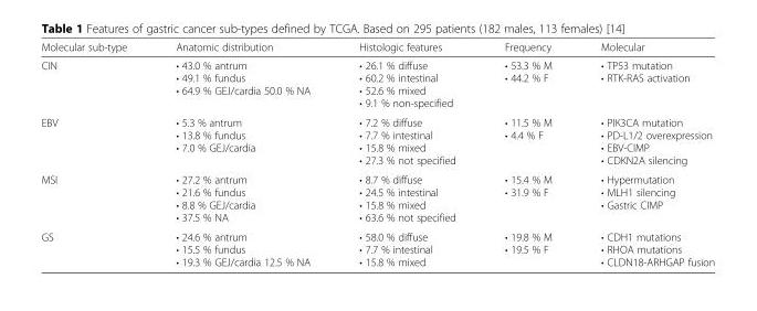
<table><thead><tr><td>Molecular sub-type</td><td>Anatomic distribution</td><td>Histologic features</td><td>Frequency</td><td>Molecular</td></tr></thead><tbody><tr><td>CIN</td><td>• 43.0 % antrum • 49.1 % fundus • 64.9 % GEJ/cardia 50.0 % NA</td><td>• 26.1 % diffuse • 60.2 % intestinal • 52.6 % mixed • 9.1 % non-specified</td><td>• 53.3 % M • 44.2 % F</td><td>• TP53 mutation • RTK-RAS activation</td></tr><tr><td>EBV</td><td>• 5.3 % antrum • 13.8 % fundus • 7.0 % GEJ/cardia</td><td>• 7.2 % diffuse • 7.7 % intestinal • 15.8 % mixed • 27.3 % not specified</td><td>• 11.5 % M • 4.4 % F</td><td>• PIK3CA mutation • PD-L1/2 overexpression • EBV-CIMP • CDKN2A silencing</td></tr><tr><td>MSI</td><td>• 27.2 % antrum • 21.6 % fundus • 8.8 % GEJ/cardia • 37.5 % NA</td><td>• 8.7 % diffuse • 24.5 % intestinal • 15.8 % mixed • 63.6 % not specified</td><td>• 15.4 % M • 31.9 % F</td><td>• Hypermutation • MLH1 silencing • Gastric CIMP</td></tr><tr><td>GS</td><td>• 24.6 % antrum • 15.5 % fundus • 19.3 % GEJ/cardia 12.5 % NA</td><td>• 58.0 % diffuse • 7.7 % intestinal • 15.8 % mixed</td><td>• 19.8 % M • 19.5 % F</td><td>• CDH1 mutations • RHOA mutations • CLDN18-ARHGAP fusion</td></tr></tbody></table>